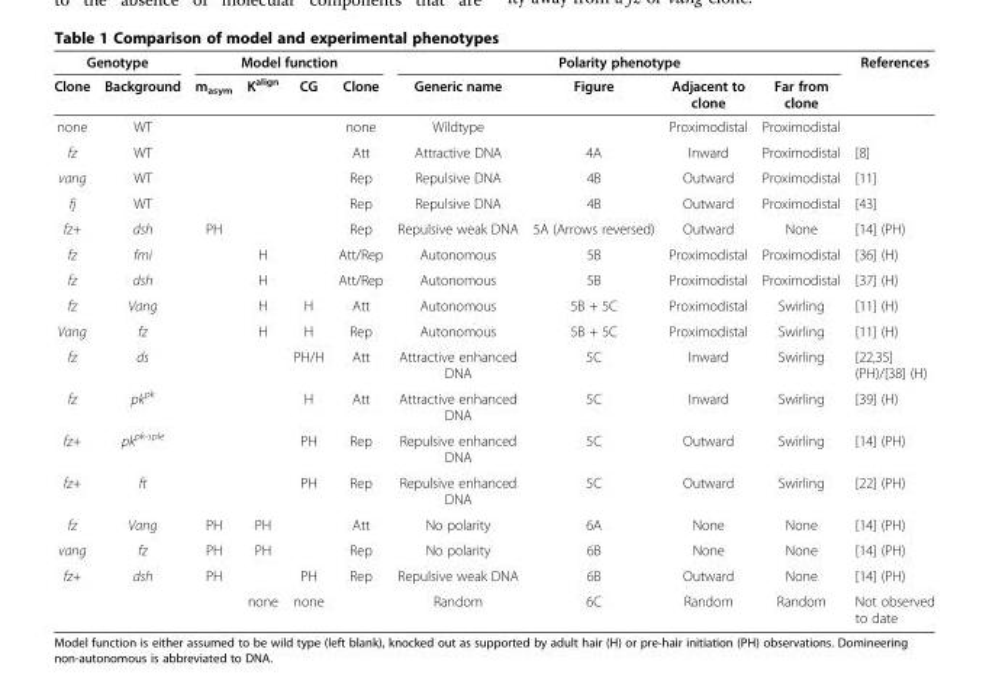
<table><thead><tr><td colspan="2">Genotype</td><td colspan="4">Model function</td><td colspan="4">Polarity phenotype</td><td rowspan="2">References</td></tr><tr><td>Clone</td><td>Background</td><td>m<sub>asym</sub></td><td>K<sup>align</sup></td><td>CG</td><td>Clone</td><td>Generic name</td><td>Figure</td><td>Adjacent to clone</td><td>Far from clone</td></tr></thead><tbody><tr><td>none</td><td>WT</td><td></td><td></td><td></td><td>none</td><td>Wildtype</td><td></td><td>Proximodistal</td><td>Proximodistal</td><td></td></tr><tr><td>fz</td><td>WT</td><td></td><td></td><td></td><td>Att</td><td>Attractive DNA</td><td>4A</td><td>Inward</td><td>Proximodistal</td><td>[8]</td></tr><tr><td>vang</td><td>WT</td><td></td><td></td><td></td><td>Rep</td><td>Repulsive DNA</td><td>4B</td><td>Outward</td><td>Proximodistal</td><td>[11]</td></tr><tr><td>fj</td><td>WT</td><td></td><td></td><td></td><td>Rep</td><td>Repulsive DNA</td><td>4B</td><td>Outward</td><td>Proximodistal</td><td>[43]</td></tr><tr><td>fz+</td><td>dsh</td><td>PH</td><td></td><td></td><td>Rep</td><td>Repulsive weak DNA</td><td>5A (Arrows reversed)</td><td>Outward</td><td>None</td><td>[14] (PH)</td></tr><tr><td>fz</td><td>fmi</td><td></td><td>H</td><td></td><td>Att/Rep</td><td>Autonomous</td><td>5B</td><td>Proximodistal</td><td>Proximodistal</td><td>[36] (H)</td></tr><tr><td>fz</td><td>dsh</td><td></td><td>H</td><td></td><td>Att/Rep</td><td>Autonomous</td><td>5B</td><td>Proximodistal</td><td>Proximodistal</td><td>[37] (H)</td></tr><tr><td>fz</td><td>Vang</td><td></td><td>H</td><td>H</td><td>Att</td><td>Autonomous</td><td>5B + 5C</td><td>Proximodistal</td><td>Swirling</td><td>[11] (H)</td></tr><tr><td>Vang</td><td>fz</td><td></td><td>H</td><td>H</td><td>Rep</td><td>Autonomous</td><td>5B + 5C</td><td>Proximodistal</td><td>Swirling</td><td>[11] (H)</td></tr><tr><td>fz</td><td>ds</td><td></td><td></td><td>PH/H</td><td>Att</td><td>Attractive enhanced DNA</td><td>5C</td><td>Inward</td><td>Swirling</td><td>[22,35] (PH)/[38] (H)</td></tr><tr><td>fz</td><td>pk<sup>pk</sup></td><td></td><td></td><td>H</td><td>Att</td><td>Attractive enhanced DNA</td><td>5C</td><td>Inward</td><td>Swirling</td><td>[39] (H)</td></tr><tr><td>fz+</td><td>pk<sup>pk-sple</sup></td><td></td><td></td><td>PH</td><td>Rep</td><td>Repulsive enhanced DNA</td><td>5C</td><td>Outward</td><td>Swirling</td><td>[14] (PH)</td></tr><tr><td>fz+</td><td>ft</td><td></td><td></td><td>PH</td><td>Rep</td><td>Repulsive enhanced DNA</td><td>5C</td><td>Outward</td><td>Swirling</td><td>[22] (PH)</td></tr><tr><td>fz</td><td>Vang</td><td>PH</td><td>PH</td><td></td><td>Att</td><td>No polarity</td><td>6A</td><td>None</td><td>None</td><td>[14] (PH)</td></tr><tr><td>vang</td><td>fz</td><td>PH</td><td>PH</td><td></td><td>Rep</td><td>No polarity</td><td>6B</td><td>None</td><td>None</td><td>[14] (PH)</td></tr><tr><td rowspan="2">fz+</td><td>dsh</td><td>PH</td><td></td><td>PH</td><td>Rep</td><td>Repulsive weak DNA</td><td>6B</td><td>Outward</td><td>None</td><td>[14] (PH)</td></tr><tr><td></td><td></td><td>none</td><td>none</td><td></td><td>Random</td><td>6C</td><td>Random</td><td>Random</td><td>Not observed to date</td></tr></tbody></table>